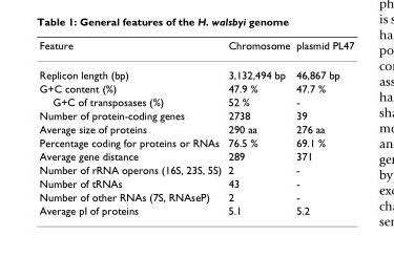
<table><thead><tr><td>Feature</td><td>Chromosome</td><td>plasmid PL47</td></tr></thead><tbody><tr><td>Replicon length (bp)</td><td>3,132,494 bp</td><td>46,867 bp</td></tr><tr><td>G+C content (%)</td><td>47.9 %</td><td>47.7 %</td></tr><tr><td>G+C of transposases (%)</td><td>52 %</td><td>-</td></tr><tr><td>Number of protein-coding genes</td><td>2738</td><td>39</td></tr><tr><td>Average size of proteins</td><td>290 aa</td><td>276 aa</td></tr><tr><td>Percentage coding for proteins or RNAs</td><td>76.5 %</td><td>69.1 %</td></tr><tr><td>Average gene distance</td><td>289</td><td>371</td></tr><tr><td>Number of rRNA operons (16S, 23S, 5S)</td><td>2</td><td>-</td></tr><tr><td>Number of tRNAs</td><td>43</td><td>-</td></tr><tr><td>Number of other RNAs (7S, RNAseP)</td><td>2</td><td>-</td></tr><tr><td>Average pI of proteins</td><td>5.1</td><td>5.2</td></tr></tbody></table>